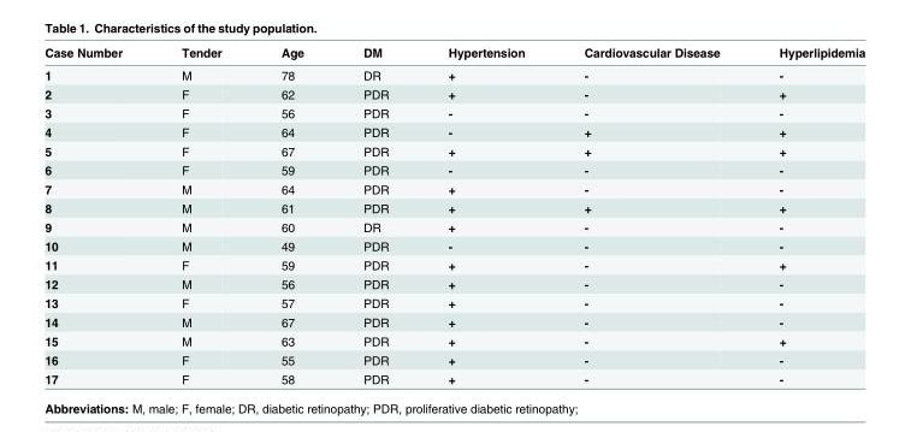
<table><thead><tr><td>Case Number</td><td>Tender</td><td>Age</td><td>DM</td><td>Hypertension</td><td>Cardiovascular Disease</td><td>Hyperlipidemia</td></tr></thead><tbody><tr><td>1</td><td>M</td><td>78</td><td>DR</td><td>+</td><td>-</td><td>-</td></tr><tr><td>2</td><td>F</td><td>62</td><td>PDR</td><td>+</td><td>-</td><td>+</td></tr><tr><td>3</td><td>F</td><td>56</td><td>PDR</td><td>-</td><td>-</td><td>-</td></tr><tr><td>4</td><td>F</td><td>64</td><td>PDR</td><td>-</td><td>+</td><td>+</td></tr><tr><td>5</td><td>F</td><td>67</td><td>PDR</td><td>+</td><td>+</td><td>+</td></tr><tr><td>6</td><td>F</td><td>59</td><td>PDR</td><td>-</td><td>-</td><td>-</td></tr><tr><td>7</td><td>M</td><td>64</td><td>PDR</td><td>+</td><td>-</td><td>-</td></tr><tr><td>8</td><td>M</td><td>61</td><td>PDR</td><td>+</td><td>+</td><td>+</td></tr><tr><td>9</td><td>M</td><td>60</td><td>DR</td><td>+</td><td>-</td><td>-</td></tr><tr><td>10</td><td>M</td><td>49</td><td>PDR</td><td>-</td><td>-</td><td>-</td></tr><tr><td>11</td><td>F</td><td>59</td><td>PDR</td><td>+</td><td>-</td><td>+</td></tr><tr><td>12</td><td>M</td><td>56</td><td>PDR</td><td>+</td><td>-</td><td>-</td></tr><tr><td>13</td><td>F</td><td>57</td><td>PDR</td><td>+</td><td>-</td><td>-</td></tr><tr><td>14</td><td>M</td><td>67</td><td>PDR</td><td>+</td><td>-</td><td>-</td></tr><tr><td>15</td><td>M</td><td>63</td><td>PDR</td><td>+</td><td>-</td><td>+</td></tr><tr><td>16</td><td>F</td><td>55</td><td>PDR</td><td>+</td><td>-</td><td>-</td></tr><tr><td>17</td><td>F</td><td>58</td><td>PDR</td><td>+</td><td>-</td><td>-</td></tr></tbody></table>